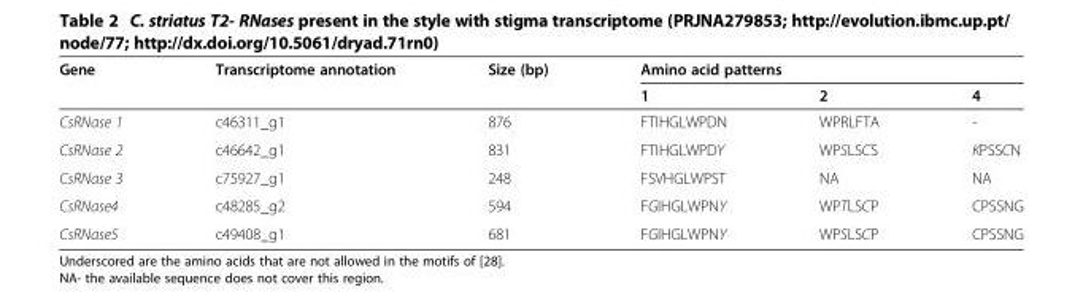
<table><thead><tr><td rowspan="2">Gene</td><td rowspan="2">Transcriptome annotation</td><td rowspan="2">Size (bp)</td><td colspan="2">Amino acid patterns</td><td rowspan="2">4</td></tr><tr><td>1</td><td>2</td></tr></thead><tbody><tr><td>CsRNase 1</td><td>c46311_g1</td><td>876</td><td>FTIHGLWPDN</td><td>WPRLFTA</td><td>-</td></tr><tr><td>CsRNase 2</td><td>c46642_g1</td><td>831</td><td>FTIHGLWPDY</td><td>WPSLSCS</td><td>KPSSCN</td></tr><tr><td>CsRNase 3</td><td>c75927_g1</td><td>248</td><td>FSVHGLWPST</td><td>NA</td><td>NA</td></tr><tr><td>CsRNase4</td><td>c48285_g2</td><td>594</td><td>FGIHGLWPNY</td><td>WPTLSCP</td><td>CPSSNG</td></tr><tr><td>CsRNase5</td><td>c49408_g1</td><td>681</td><td>FGIHGLWPNY</td><td>WPSLSCP</td><td>CPSSNG</td></tr></tbody></table>